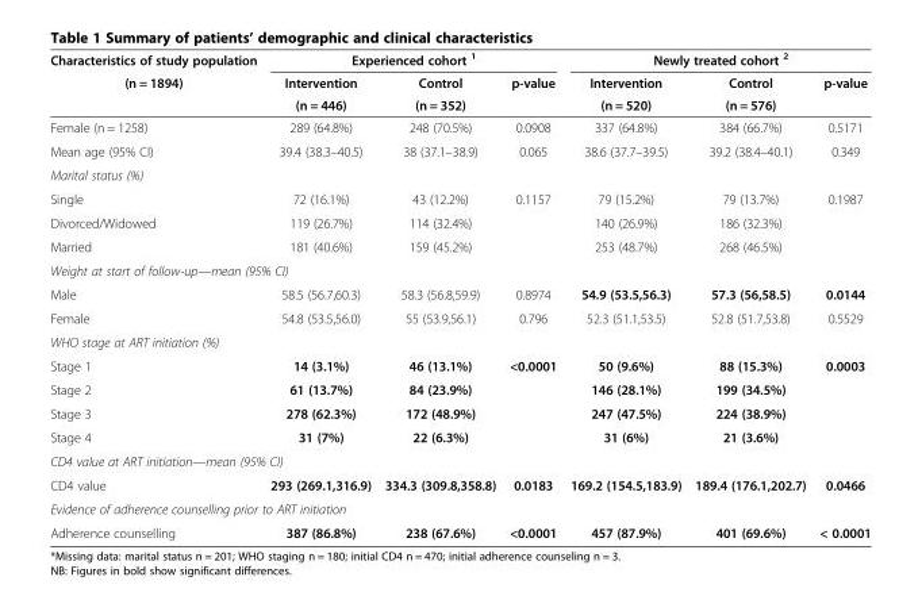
<table><thead><tr><td rowspan="3">Characteristics of study population (n = 1894)</td><td colspan="3">Experienced cohort <sup>1</sup></td><td colspan="3">Newly treated cohort <sup>2</sup></td></tr><tr><td rowspan="2">Intervention (n = 446)</td><td rowspan="2">Control (n = 352)</td><td rowspan="2">p-value</td><td rowspan="2">Intervention (n = 520)</td><td rowspan="2">Control (n = 576)</td><td rowspan="2">p-value</td></tr><tr></tr></thead><tbody><tr><td>Female (n = 1258)</td><td>289 (64.8%)</td><td>248 (70.5%)</td><td>0.0908</td><td>337 (64.8%)</td><td>384 (66.7%)</td><td>0.5171</td></tr><tr><td>Mean age (95% CI)</td><td>39.4 (38.3–40.5)</td><td>38 (37.1–38.9)</td><td>0.065</td><td>38.6 (37.7–39.5)</td><td>39.2 (38.4–40.1)</td><td>0.349</td></tr><tr><td colspan="7">Marital status (%)</td></tr><tr><td>Single</td><td>72 (16.1%)</td><td>43 (12.2%)</td><td rowspan="3">0.1157</td><td>79 (15.2%)</td><td>79 (13.7%)</td><td rowspan="3">0.1987</td></tr><tr><td>Divorced/Widowed</td><td>119 (26.7%)</td><td>114 (32.4%)</td><td>140 (26.9%)</td><td>186 (32.3%)</td></tr><tr><td>Married</td><td>181 (40.6%)</td><td>159 (45.2%)</td><td>253 (48.7%)</td><td>268 (46.5%)</td></tr><tr><td colspan="7">Weight at start of follow-up—mean (95% CI)</td></tr><tr><td>Male</td><td>58.5 (56.7,60.3)</td><td>58.3 (56.8,59.9)</td><td>0.8974</td><td>54.9 (53.5,56.3)</td><td>57.3 (56,58.5)</td><td>0.0144</td></tr><tr><td>Female</td><td>54.8 (53.5,56.0)</td><td>55 (53.9,56.1)</td><td>0.796</td><td>52.3 (51.1,53.5)</td><td>52.8 (51.7,53.8)</td><td>0.5529</td></tr><tr><td colspan="7">WHO stage at ART initiation (%)</td></tr><tr><td>Stage 1</td><td>14 (3.1%)</td><td>46 (13.1%)</td><td rowspan="4">&lt;0.0001</td><td>50 (9.6%)</td><td>88 (15.3%)</td><td rowspan="4">0.0003</td></tr><tr><td>Stage 2</td><td>61 (13.7%)</td><td>84 (23.9%)</td><td>146 (28.1%)</td><td>199 (34.5%)</td></tr><tr><td>Stage 3</td><td>278 (62.3%)</td><td>172 (48.9%)</td><td>247 (47.5%)</td><td>224 (38.9%)</td></tr><tr><td>Stage 4</td><td>31 (7%)</td><td>22 (6.3%)</td><td>31 (6%)</td><td>21 (3.6%)</td></tr><tr><td colspan="7">CD4 value at ART initiation—mean (95% CI)</td></tr><tr><td>CD4 value</td><td>293 (269.1,316.9)</td><td>334.3 (309.8,358.8)</td><td>0.0183</td><td>169.2 (154.5,183.9)</td><td>189.4 (176.1,202.7)</td><td>0.0466</td></tr><tr><td colspan="7">Evidence of adherence counselling prior to ART initiation</td></tr><tr><td>Adherence counselling</td><td>387 (86.8%)</td><td>238 (67.6%)</td><td>&lt;0.0001</td><td>457 (87.9%)</td><td>401 (69.6%)</td><td>&lt; 0.0001</td></tr></tbody></table>